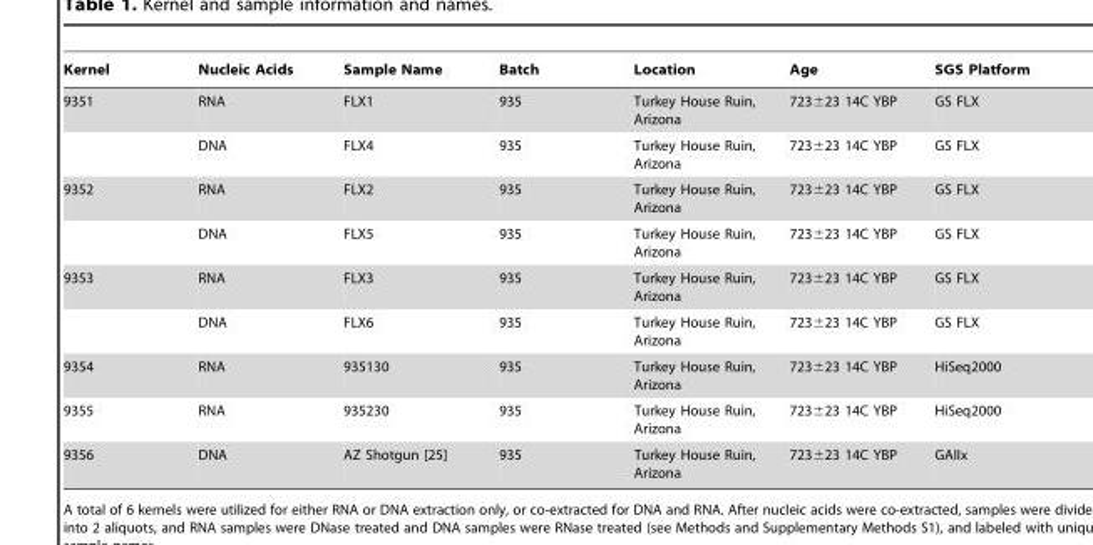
<table><thead><tr><td>Kernel</td><td>Nucleic Acids</td><td>Sample Name</td><td>Batch</td><td>Location</td><td>Age</td><td>SGS Platform</td></tr></thead><tbody><tr><td rowspan="2">9351</td><td>RNA</td><td>FLX1</td><td>935</td><td>Turkey House Ruin, Arizona</td><td>723±23 14C YBP</td><td>GS FLX</td></tr><tr><td>DNA</td><td>FLX4</td><td>935</td><td>Turkey House Ruin, Arizona</td><td>723±23 14C YBP</td><td>GS FLX</td></tr><tr><td rowspan="2">9352</td><td>RNA</td><td>FLX2</td><td>935</td><td>Turkey House Ruin, Arizona</td><td>723±23 14C YBP</td><td>GS FLX</td></tr><tr><td>DNA</td><td>FLX5</td><td>935</td><td>Turkey House Ruin, Arizona</td><td>723±23 14C YBP</td><td>GS FLX</td></tr><tr><td rowspan="2">9353</td><td>RNA</td><td>FLX3</td><td>935</td><td>Turkey House Ruin, Arizona</td><td>723±23 14C YBP</td><td>GS FLX</td></tr><tr><td>DNA</td><td>FLX6</td><td>935</td><td>Turkey House Ruin, Arizona</td><td>723±23 14C YBP</td><td>GS FLX</td></tr><tr><td>9354</td><td>RNA</td><td>935130</td><td>935</td><td>Turkey House Ruin, Arizona</td><td>723±23 14C YBP</td><td>HiSeq2000</td></tr><tr><td>9355</td><td>RNA</td><td>935230</td><td>935</td><td>Turkey House Ruin, Arizona</td><td>723±23 14C YBP</td><td>HiSeq2000</td></tr><tr><td>9356</td><td>DNA</td><td>AZ Shotgun [25]</td><td>935</td><td>Turkey House Ruin, Arizona</td><td>723±23 14C YBP</td><td>GAIIx</td></tr></tbody></table>